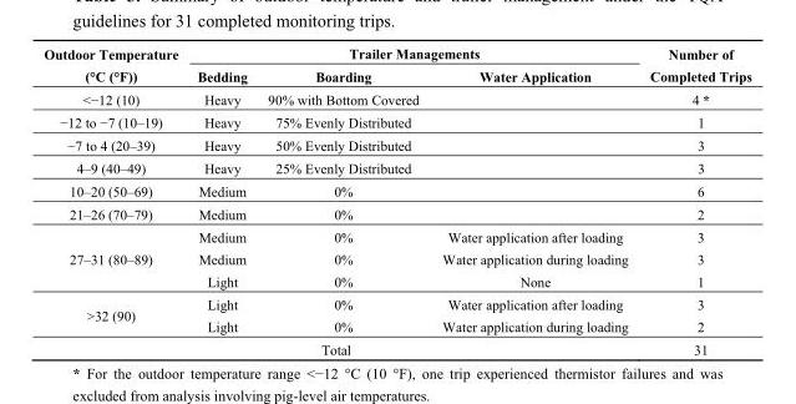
<table><thead><tr><td rowspan="2">Outdoor Temperature (°C (°F))</td><td colspan="3">Trailer Managements</td><td rowspan="2">Number of Completed Trips</td></tr><tr><td>Bedding</td><td>Boarding</td><td>Water Application</td></tr></thead><tbody><tr><td>&lt;−12 (10)</td><td>Heavy</td><td>90% with Bottom Covered</td><td></td><td>4 *</td></tr><tr><td>−12 to −7 (10–19)</td><td>Heavy</td><td>75% Evenly Distributed</td><td></td><td>1</td></tr><tr><td>−7 to 4 (20–39)</td><td>Heavy</td><td>50% Evenly Distributed</td><td></td><td>3</td></tr><tr><td>4–9 (40–49)</td><td>Heavy</td><td>25% Evenly Distributed</td><td></td><td>3</td></tr><tr><td>10–20 (50–69)</td><td>Medium</td><td>0%</td><td></td><td>6</td></tr><tr><td>21–26 (70–79)</td><td>Medium</td><td>0%</td><td></td><td>2</td></tr><tr><td rowspan="3">27–31 (80–89)</td><td>Medium</td><td>0%</td><td>Water application after loading</td><td>3</td></tr><tr><td>Medium</td><td>0%</td><td>Water application during loading</td><td>3</td></tr><tr><td>Light</td><td>0%</td><td>None</td><td>1</td></tr><tr><td rowspan="2">&gt;32 (90)</td><td>Light</td><td>0%</td><td>Water application after loading</td><td>3</td></tr><tr><td>Light</td><td>0%</td><td>Water application during loading</td><td>2</td></tr><tr><td colspan="4">Total</td><td>31</td></tr></tbody></table>